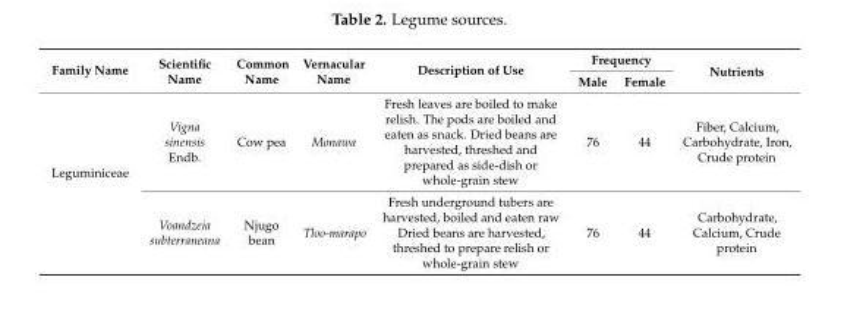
<table><thead><tr><td rowspan="2">Family Name</td><td rowspan="2">Scientific Name</td><td rowspan="2">Common Name</td><td rowspan="2">Vernacular Name</td><td rowspan="2">Description of Use</td><td colspan="2">Frequency</td><td rowspan="2">Nutrients</td></tr><tr><td>Male</td><td>Female</td></tr></thead><tbody><tr><td rowspan="2">Leguminiceae</td><td>Vigna sinensis Endb.</td><td>Cow pea</td><td>Monawa</td><td>Fresh leaves are boiled to make relish. The pods are boiled and eaten as snack. Dried beans are harvested, threshed and prepared as side-dish or whole-grain stew</td><td>76</td><td>44</td><td>Fiber, Calcium, Carbohydrate, Iron, Crude protein</td></tr><tr><td>Voandzeia subterraneana</td><td>Njugo bean</td><td>Tloo-marapo</td><td>Fresh underground tubers are harvested, boiled and eaten raw Dried beans are harvested, threshed to prepare relish or whole-grain stew</td><td>76</td><td>44</td><td>Carbohydrate, Calcium, Crude protein</td></tr></tbody></table>